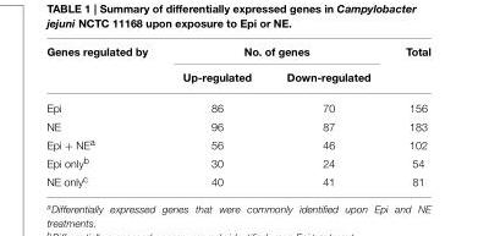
<table><thead><tr><td rowspan="2">Genes regulated by</td><td colspan="2">No. of genes</td><td rowspan="2">Total</td></tr><tr><td>Up-regulated</td><td>Down-regulated</td></tr></thead><tbody><tr><td>Epi</td><td>86</td><td>70</td><td>156</td></tr><tr><td>NE</td><td>96</td><td>87</td><td>183</td></tr><tr><td>Epi + NE<sup>a</sup></td><td>56</td><td>46</td><td>102</td></tr><tr><td>Epi only<sup>b</sup></td><td>30</td><td>24</td><td>54</td></tr><tr><td>NE only<sup>c</sup></td><td>40</td><td>41</td><td>81</td></tr></tbody></table>